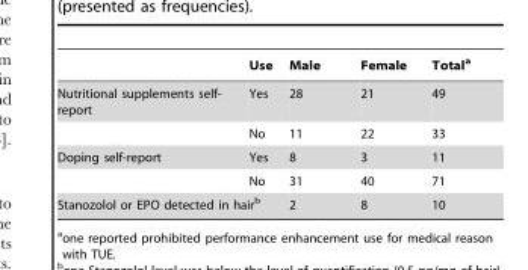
<table><thead><tr><td></td><td>Use</td><td>Male</td><td>Female</td><td>Total<sup>a</sup></td></tr></thead><tbody><tr><td rowspan="2">Nutritional supplements self- report</td><td>Yes</td><td>28</td><td>21</td><td>49</td></tr><tr><td>No</td><td>11</td><td>22</td><td>33</td></tr><tr><td rowspan="2">Doping self-report</td><td>Yes</td><td>8</td><td>3</td><td>11</td></tr><tr><td>No</td><td>31</td><td>40</td><td>71</td></tr><tr><td colspan="2">Stanozolol or EPO detected in hair<sup>b</sup></td><td>2</td><td>8</td><td>10</td></tr></tbody></table>